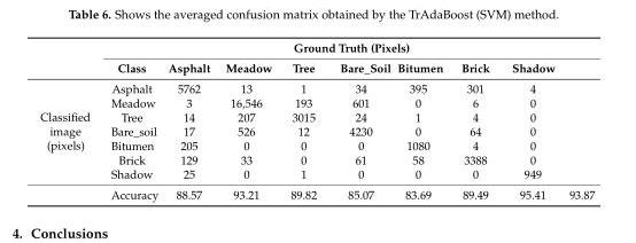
<table><thead><tr><td rowspan="2"></td><td colspan="9">Ground Truth (Pixels)</td></tr><tr><td>Class</td><td>Asphalt</td><td>Meadow</td><td>Tree</td><td>Bare_Soil</td><td>Bitumen</td><td>Brick</td><td>Shadow</td><td></td></tr></thead><tbody><tr><td rowspan="8">Classified image (pixels)</td><td>Asphalt</td><td>5762</td><td>13</td><td>1</td><td>34</td><td>395</td><td>301</td><td>4</td><td></td></tr><tr><td>Meadow</td><td>3</td><td>16,546</td><td>193</td><td>601</td><td>0</td><td>6</td><td>0</td><td></td></tr><tr><td>Tree</td><td>14</td><td>207</td><td>3015</td><td>24</td><td>1</td><td>4</td><td>0</td><td></td></tr><tr><td>Bare_soil</td><td>17</td><td>526</td><td>12</td><td>4230</td><td>0</td><td>64</td><td>0</td><td></td></tr><tr><td>Bitumen</td><td>205</td><td>0</td><td>0</td><td>0</td><td>1080</td><td>4</td><td>0</td><td></td></tr><tr><td>Brick</td><td>129</td><td>33</td><td>0</td><td>61</td><td>58</td><td>3388</td><td>0</td><td></td></tr><tr><td>Shadow</td><td>25</td><td>0</td><td>1</td><td>0</td><td>0</td><td>0</td><td>949</td><td></td></tr><tr><td>Accuracy</td><td>88.57</td><td>93.21</td><td>89.82</td><td>85.07</td><td>83.69</td><td>89.49</td><td>95.41</td><td>93.87</td></tr></tbody></table>